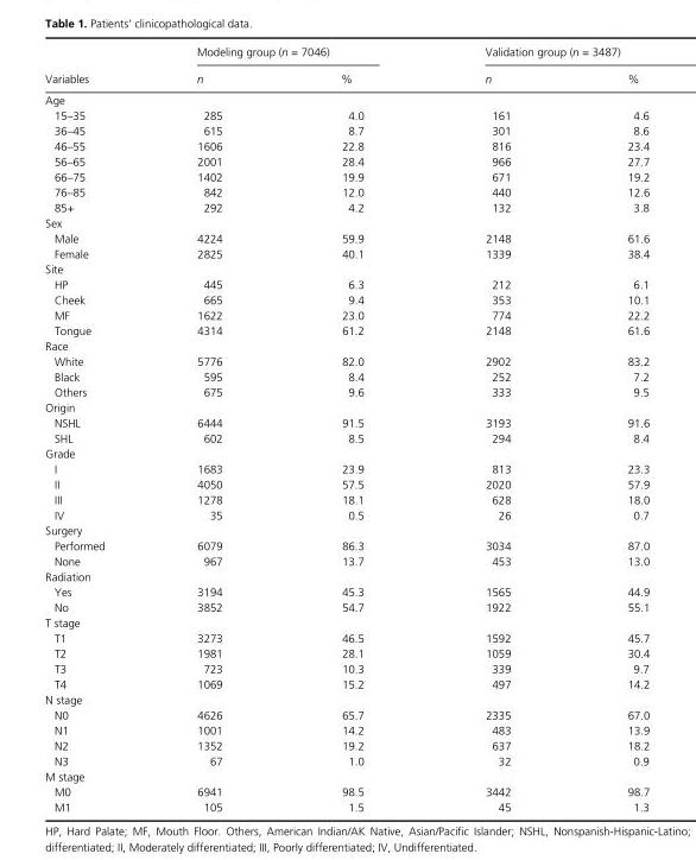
<table><thead><tr><td rowspan="2">Variables</td><td colspan="2">Modeling group (n = 7046)</td><td colspan="2">Validation group (n = 3487)</td></tr><tr><td>n</td><td>%</td><td>n</td><td>%</td></tr></thead><tbody><tr><td colspan="5">Age</td></tr><tr><td>15–35</td><td>285</td><td>4.0</td><td>161</td><td>4.6</td></tr><tr><td>36–45</td><td>615</td><td>8.7</td><td>301</td><td>8.6</td></tr><tr><td>46–55</td><td>1606</td><td>22.8</td><td>816</td><td>23.4</td></tr><tr><td>56–65</td><td>2001</td><td>28.4</td><td>966</td><td>27.7</td></tr><tr><td>66–75</td><td>1402</td><td>19.9</td><td>671</td><td>19.2</td></tr><tr><td>76–85</td><td>842</td><td>12.0</td><td>440</td><td>12.6</td></tr><tr><td>85+</td><td>292</td><td>4.2</td><td>132</td><td>3.8</td></tr><tr><td colspan="5">Sex</td></tr><tr><td>Male</td><td>4224</td><td>59.9</td><td>2148</td><td>61.6</td></tr><tr><td>Female</td><td>2825</td><td>40.1</td><td>1339</td><td>38.4</td></tr><tr><td colspan="5">Site</td></tr><tr><td>HP</td><td>445</td><td>6.3</td><td>212</td><td>6.1</td></tr><tr><td>Cheek</td><td>665</td><td>9.4</td><td>353</td><td>10.1</td></tr><tr><td>MF</td><td>1622</td><td>23.0</td><td>774</td><td>22.2</td></tr><tr><td>Tongue</td><td>4314</td><td>61.2</td><td>2148</td><td>61.6</td></tr><tr><td colspan="5">Race</td></tr><tr><td>White</td><td>5776</td><td>82.0</td><td>2902</td><td>83.2</td></tr><tr><td>Black</td><td>595</td><td>8.4</td><td>252</td><td>7.2</td></tr><tr><td>Others</td><td>675</td><td>9.6</td><td>333</td><td>9.5</td></tr><tr><td colspan="5">Origin</td></tr><tr><td>NSHL</td><td>6444</td><td>91.5</td><td>3193</td><td>91.6</td></tr><tr><td>SHL</td><td>602</td><td>8.5</td><td>294</td><td>8.4</td></tr><tr><td colspan="5">Grade</td></tr><tr><td>I</td><td>1683</td><td>23.9</td><td>813</td><td>23.3</td></tr><tr><td>II</td><td>4050</td><td>57.5</td><td>2020</td><td>57.9</td></tr><tr><td>III</td><td>1278</td><td>18.1</td><td>628</td><td>18.0</td></tr><tr><td>IV</td><td>35</td><td>0.5</td><td>26</td><td>0.7</td></tr><tr><td colspan="5">Surgery</td></tr><tr><td>Performed</td><td>6079</td><td>86.3</td><td>3034</td><td>87.0</td></tr><tr><td>None</td><td>967</td><td>13.7</td><td>453</td><td>13.0</td></tr><tr><td colspan="5">Radiation</td></tr><tr><td>Yes</td><td>3194</td><td>45.3</td><td>1565</td><td>44.9</td></tr><tr><td>No</td><td>3852</td><td>54.7</td><td>1922</td><td>55.1</td></tr><tr><td colspan="5">T stage</td></tr><tr><td>T1</td><td>3273</td><td>46.5</td><td>1592</td><td>45.7</td></tr><tr><td>T2</td><td>1981</td><td>28.1</td><td>1059</td><td>30.4</td></tr><tr><td>T3</td><td>723</td><td>10.3</td><td>339</td><td>9.7</td></tr><tr><td>T4</td><td>1069</td><td>15.2</td><td>497</td><td>14.2</td></tr><tr><td colspan="5">N stage</td></tr><tr><td>N0</td><td>4626</td><td>65.7</td><td>2335</td><td>67.0</td></tr><tr><td>N1</td><td>1001</td><td>14.2</td><td>483</td><td>13.9</td></tr><tr><td>N2</td><td>1352</td><td>19.2</td><td>637</td><td>18.2</td></tr><tr><td>N3</td><td>67</td><td>1.0</td><td>32</td><td>0.9</td></tr><tr><td colspan="5">M stage</td></tr><tr><td>M0</td><td>6941</td><td>98.5</td><td>3442</td><td>98.7</td></tr><tr><td>M1</td><td>105</td><td>1.5</td><td>45</td><td>1.3</td></tr></tbody></table>